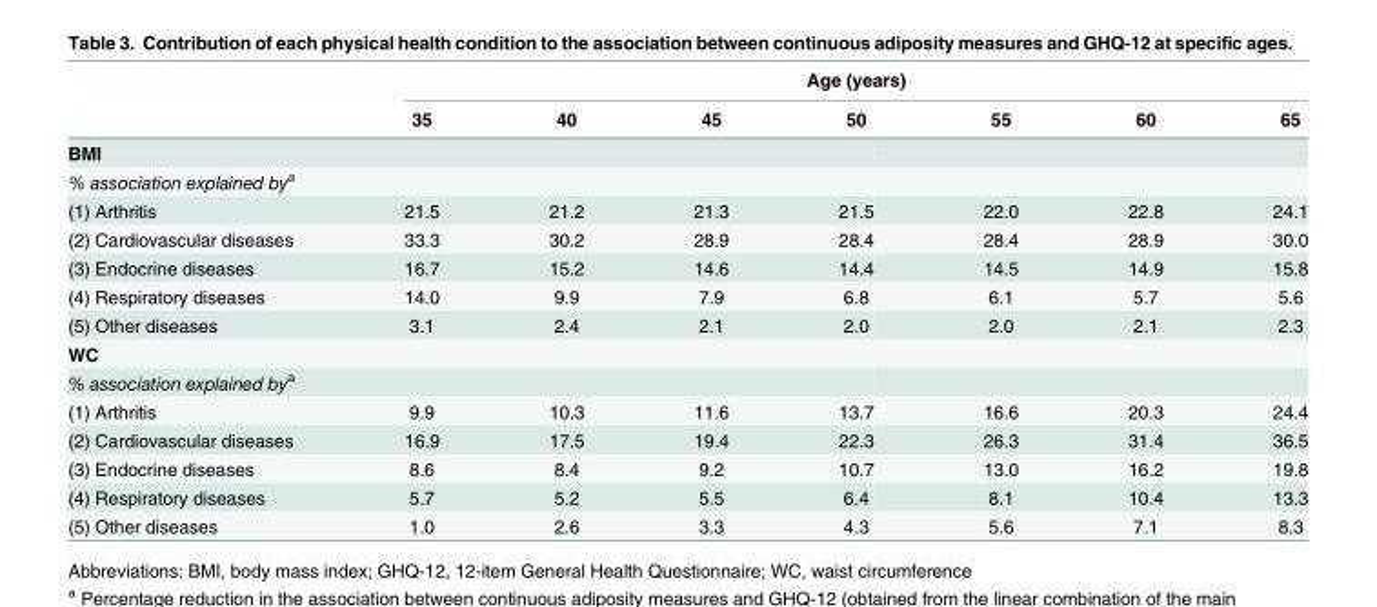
<table><thead><tr><td rowspan="2"></td><td colspan="7">Age (years)</td></tr><tr><td>35</td><td>40</td><td>45</td><td>50</td><td>55</td><td>60</td><td>65</td></tr></thead><tbody><tr><td colspan="8">BMI</td></tr><tr><td colspan="8">% association explained by<sup>a</sup></td></tr><tr><td>(1) Arthritis</td><td>21.5</td><td>21.2</td><td>21.3</td><td>21.5</td><td>22.0</td><td>22.8</td><td>24.1</td></tr><tr><td>(2) Cardiovascular diseases</td><td>33.3</td><td>30.2</td><td>28.9</td><td>28.4</td><td>28.4</td><td>28.9</td><td>30.0</td></tr><tr><td>(3) Endocrine diseases</td><td>16.7</td><td>15.2</td><td>14.6</td><td>14.4</td><td>14.5</td><td>14.9</td><td>15.8</td></tr><tr><td>(4) Respiratory diseases</td><td>14.0</td><td>9.9</td><td>7.9</td><td>6.8</td><td>6.1</td><td>5.7</td><td>5.6</td></tr><tr><td>(5) Other diseases</td><td>3.1</td><td>2.4</td><td>2.1</td><td>2.0</td><td>2.0</td><td>2.1</td><td>2.3</td></tr><tr><td colspan="8">WC</td></tr><tr><td colspan="8">% association explained by<sup>a</sup></td></tr><tr><td>(1) Arthritis</td><td>9.9</td><td>10.3</td><td>11.6</td><td>13.7</td><td>16.6</td><td>20.3</td><td>24.4</td></tr><tr><td>(2) Cardiovascular diseases</td><td>16.9</td><td>17.5</td><td>19.4</td><td>22.3</td><td>26.3</td><td>31.4</td><td>36.5</td></tr><tr><td>(3) Endocrine diseases</td><td>8.6</td><td>8.4</td><td>9.2</td><td>10.7</td><td>13.0</td><td>16.2</td><td>19.8</td></tr><tr><td>(4) Respiratory diseases</td><td>5.7</td><td>5.2</td><td>5.5</td><td>6.4</td><td>8.1</td><td>10.4</td><td>13.3</td></tr><tr><td>(5) Other diseases</td><td>1.0</td><td>2.6</td><td>3.3</td><td>4.3</td><td>5.6</td><td>7.1</td><td>8.3</td></tr></tbody></table>